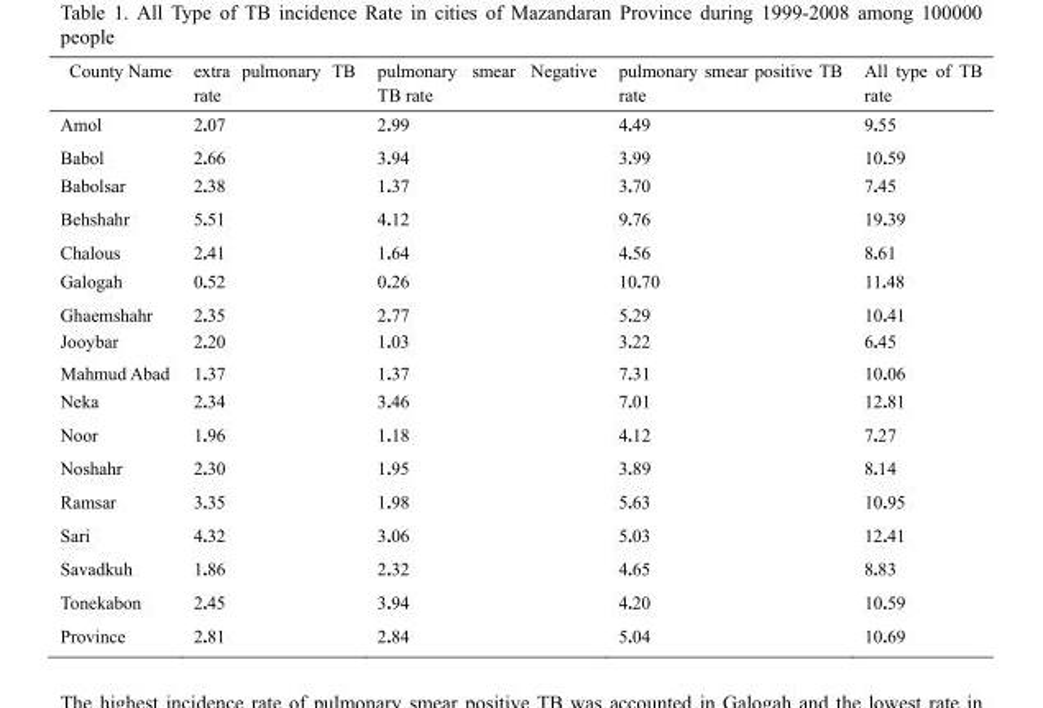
<table><thead><tr><td>County Name</td><td>extra pulmonary TB rate</td><td>pulmonary smear Negative TB rate</td><td>pulmonary smear positive TB rate</td><td>All type of TB rate</td></tr></thead><tbody><tr><td>Amol</td><td>2.07</td><td>2.99</td><td>4.49</td><td>9.55</td></tr><tr><td>Babol</td><td>2.66</td><td>3.94</td><td>3.99</td><td>10.59</td></tr><tr><td>Babolsar</td><td>2.38</td><td>1.37</td><td>3.70</td><td>7.45</td></tr><tr><td>Behshahr</td><td>5.51</td><td>4.12</td><td>9.76</td><td>19.39</td></tr><tr><td>Chalous</td><td>2.41</td><td>1.64</td><td>4.56</td><td>8.61</td></tr><tr><td>Galogah</td><td>0.52</td><td>0.26</td><td>10.70</td><td>11.48</td></tr><tr><td>Ghaemshahr</td><td>2.35</td><td>2.77</td><td>5.29</td><td>10.41</td></tr><tr><td>Jooybar</td><td>2.20</td><td>1.03</td><td>3.22</td><td>6.45</td></tr><tr><td>Mahmud Abad</td><td>1.37</td><td>1.37</td><td>7.31</td><td>10.06</td></tr><tr><td>Neka</td><td>2.34</td><td>3.46</td><td>7.01</td><td>12.81</td></tr><tr><td>Noor</td><td>1.96</td><td>1.18</td><td>4.12</td><td>7.27</td></tr><tr><td>Noshahr</td><td>2.30</td><td>1.95</td><td>3.89</td><td>8.14</td></tr><tr><td>Ramsar</td><td>3.35</td><td>1.98</td><td>5.63</td><td>10.95</td></tr><tr><td>Sari</td><td>4.32</td><td>3.06</td><td>5.03</td><td>12.41</td></tr><tr><td>Savadkuh</td><td>1.86</td><td>2.32</td><td>4.65</td><td>8.83</td></tr><tr><td>Tonekabon</td><td>2.45</td><td>3.94</td><td>4.20</td><td>10.59</td></tr><tr><td>Province</td><td>2.81</td><td>2.84</td><td>5.04</td><td>10.69</td></tr></tbody></table>